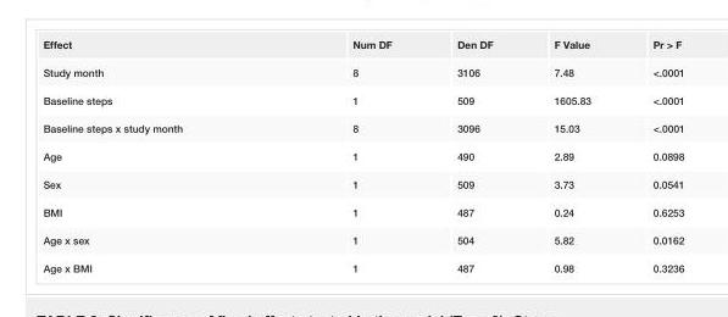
<table><tbody><tr><td>Effect</td><td>Num DF</td><td>Den DF</td><td>F Value</td><td>Pr &gt; F</td></tr><tr><td>Study month</td><td>8</td><td>3106</td><td>7.48</td><td>&lt;.0001</td></tr><tr><td>Baseline steps</td><td>1</td><td>509</td><td>1605.83</td><td>&lt;.0001</td></tr><tr><td>Baseline steps x study month</td><td>8</td><td>3096</td><td>15.03</td><td>&lt;.0001</td></tr><tr><td>Age</td><td>1</td><td>490</td><td>2.89</td><td>0.0898</td></tr><tr><td>Sex</td><td>1</td><td>509</td><td>3.73</td><td>0.0541</td></tr><tr><td>BMI</td><td>1</td><td>487</td><td>0.24</td><td>0.6253</td></tr><tr><td>Age x sex</td><td>1</td><td>504</td><td>5.82</td><td>0.0162</td></tr><tr><td>Age x BMI</td><td>1</td><td>487</td><td>0.98</td><td>0.3236</td></tr></tbody></table>